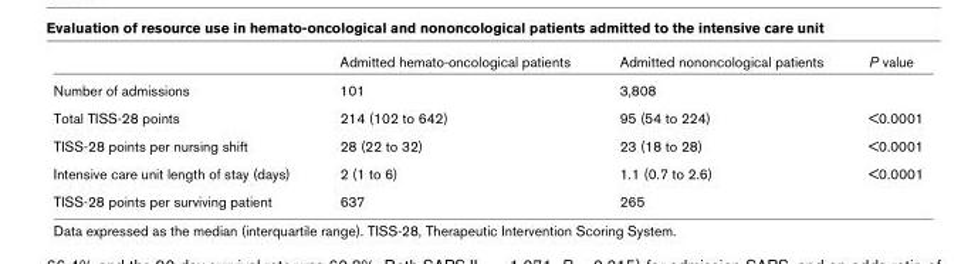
<table><thead><tr><td></td><td>Admitted hemato-oncological patients</td><td>Admitted nononcological patients</td><td>P value</td></tr></thead><tbody><tr><td>Number of admissions</td><td>101</td><td>3,808</td><td></td></tr><tr><td>Total TISS-28 points</td><td>214 (102 to 642)</td><td>95 (54 to 224)</td><td>&lt;0.0001</td></tr><tr><td>TISS-28 points per nursing shift</td><td>28 (22 to 32)</td><td>23 (18 to 28)</td><td>&lt;0.0001</td></tr><tr><td>Intensive care unit length of stay (days)</td><td>2 (1 to 6)</td><td>1.1 (0.7 to 2.6)</td><td>&lt;0.0001</td></tr><tr><td>TISS-28 points per surviving patient</td><td>637</td><td>265</td><td></td></tr></tbody></table>